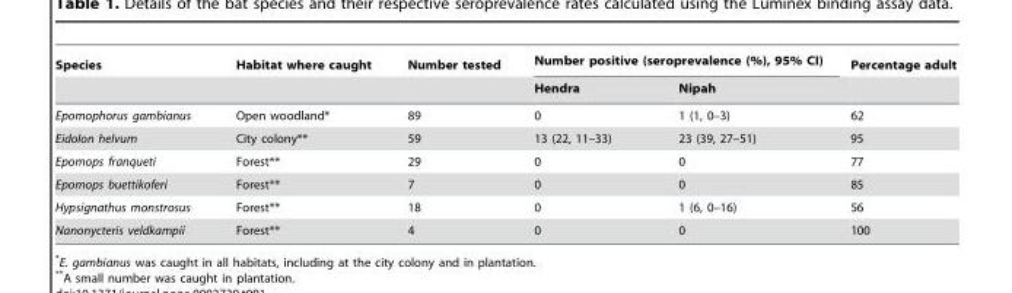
<table><thead><tr><td rowspan="2">Species</td><td rowspan="2">Habitat where caught</td><td rowspan="2">Number tested</td><td colspan="2">Number positive (seroprevalence (%), 95% CI)</td><td rowspan="2">Percentage adult</td></tr><tr><td>Hendra</td><td>Nipah</td></tr></thead><tbody><tr><td>Epomophorus gambianus</td><td>Open woodland*</td><td>89</td><td>0</td><td>1 (1, 0–3)</td><td>62</td></tr><tr><td>Eidolon helvum</td><td>City colony**</td><td>59</td><td>13 (22, 11–33)</td><td>23 (39, 27–51)</td><td>95</td></tr><tr><td>Epomops franqueti</td><td>Forest**</td><td>29</td><td>0</td><td>0</td><td>77</td></tr><tr><td>Epomops buettikoferi</td><td>Forest**</td><td>7</td><td>0</td><td>0</td><td>85</td></tr><tr><td>Hypsignathus monstrosus</td><td>Forest**</td><td>18</td><td>0</td><td>1 (6, 0–16)</td><td>56</td></tr><tr><td>Nanonycteris veldkampii</td><td>Forest**</td><td>4</td><td>0</td><td>0</td><td>100</td></tr></tbody></table>